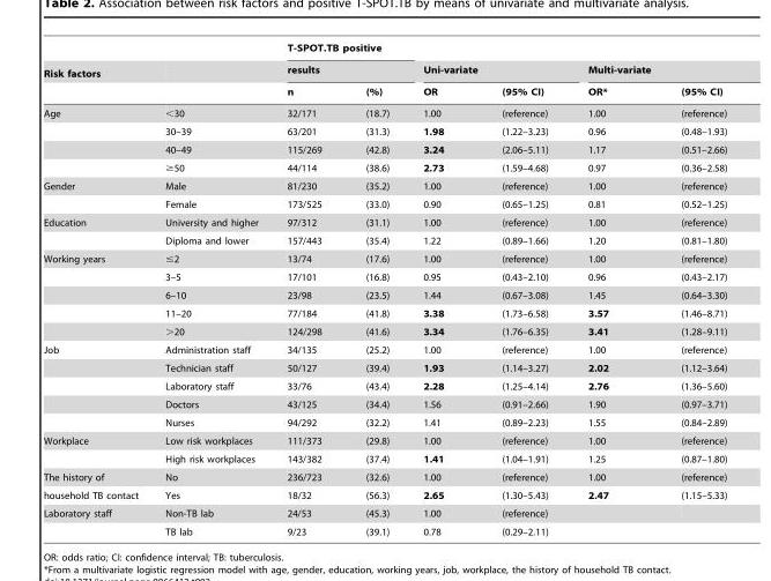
<table><thead><tr><td rowspan="3">Risk factors</td><td rowspan="3"></td><td rowspan="2" colspan="2">T-SPOT.TB positive results</td><td></td><td></td><td></td><td></td></tr><tr><td colspan="2">Uni-variate</td><td colspan="2">Multi-variate</td></tr><tr><td>n</td><td>(%)</td><td>OR</td><td>(95% CI)</td><td>OR*</td><td>(95% CI)</td></tr></thead><tbody><tr><td rowspan="4">Age</td><td>&lt;30</td><td>32/171</td><td>(18.7)</td><td>1.00</td><td>(reference)</td><td>1.00</td><td>(reference)</td></tr><tr><td>30–39</td><td>63/201</td><td>(31.3)</td><td>1.98</td><td>(1.22–3.23)</td><td>0.96</td><td>(0.48–1.93)</td></tr><tr><td>40–49</td><td>115/269</td><td>(42.8)</td><td>3.24</td><td>(2.06–5.11)</td><td>1.17</td><td>(0.51–2.66)</td></tr><tr><td>≥50</td><td>44/114</td><td>(38.6)</td><td>2.73</td><td>(1.59–4.68)</td><td>0.97</td><td>(0.36–2.58)</td></tr><tr><td rowspan="2">Gender</td><td>Male</td><td>81/230</td><td>(35.2)</td><td>1.00</td><td>(reference)</td><td>1.00</td><td>(reference)</td></tr><tr><td>Female</td><td>173/525</td><td>(33.0)</td><td>0.90</td><td>(0.65–1.25)</td><td>0.81</td><td>(0.52–1.25)</td></tr><tr><td rowspan="2">Education</td><td>University and higher</td><td>97/312</td><td>(31.1)</td><td>1.00</td><td>(reference)</td><td>1.00</td><td>(reference)</td></tr><tr><td>Diploma and lower</td><td>157/443</td><td>(35.4)</td><td>1.22</td><td>(0.89–1.66)</td><td>1.20</td><td>(0.81–1.80)</td></tr><tr><td rowspan="5">Working years</td><td>≤2</td><td>13/74</td><td>(17.6)</td><td>1.00</td><td>(reference)</td><td>1.00</td><td>(reference)</td></tr><tr><td>3–5</td><td>17/101</td><td>(16.8)</td><td>0.95</td><td>(0.43–2.10)</td><td>0.96</td><td>(0.43–2.17)</td></tr><tr><td>6–10</td><td>23/98</td><td>(23.5)</td><td>1.44</td><td>(0.67–3.08)</td><td>1.45</td><td>(0.64–3.30)</td></tr><tr><td>11–20</td><td>77/184</td><td>(41.8)</td><td>3.38</td><td>(1.73–6.58)</td><td>3.57</td><td>(1.46–8.71)</td></tr><tr><td>&gt;20</td><td>124/298</td><td>(41.6)</td><td>3.34</td><td>(1.76–6.35)</td><td>3.41</td><td>(1.28–9.11)</td></tr><tr><td rowspan="5">Job</td><td>Administration staff</td><td>34/135</td><td>(25.2)</td><td>1.00</td><td>(reference)</td><td>1.00</td><td>(reference)</td></tr><tr><td>Technician staff</td><td>50/127</td><td>(39.4)</td><td>1.93</td><td>(1.14–3.27)</td><td>2.02</td><td>(1.12–3.64)</td></tr><tr><td>Laboratory staff</td><td>33/76</td><td>(43.4)</td><td>2.28</td><td>(1.25–4.14)</td><td>2.76</td><td>(1.36–5.60)</td></tr><tr><td>Doctors</td><td>43/125</td><td>(34.4)</td><td>1.56</td><td>(0.91–2.66)</td><td>1.90</td><td>(0.97–3.71)</td></tr><tr><td>Nurses</td><td>94/292</td><td>(32.2)</td><td>1.41</td><td>(0.89–2.23)</td><td>1.55</td><td>(0.84–2.89)</td></tr><tr><td rowspan="2">Workplace</td><td>Low risk workplaces</td><td>111/373</td><td>(29.8)</td><td>1.00</td><td>(reference)</td><td>1.00</td><td>(reference)</td></tr><tr><td>High risk workplaces</td><td>143/382</td><td>(37.4)</td><td>1.41</td><td>(1.04–1.91)</td><td>1.25</td><td>(0.87–1.80)</td></tr><tr><td>The history of</td><td>No</td><td>236/723</td><td>(32.6)</td><td>1.00</td><td>(reference)</td><td>1.00</td><td>(reference)</td></tr><tr><td>household TB contact</td><td>Yes</td><td>18/32</td><td>(56.3)</td><td>2.65</td><td>(1.30–5.43)</td><td>2.47</td><td>(1.15–5.33)</td></tr><tr><td rowspan="2">Laboratory staff</td><td>Non-TB lab</td><td>24/53</td><td>(45.3)</td><td>1.00</td><td>(reference)</td><td></td><td></td></tr><tr><td>TB lab</td><td>9/23</td><td>(39.1)</td><td>0.78</td><td>(0.29–2.11)</td><td></td><td></td></tr></tbody></table>